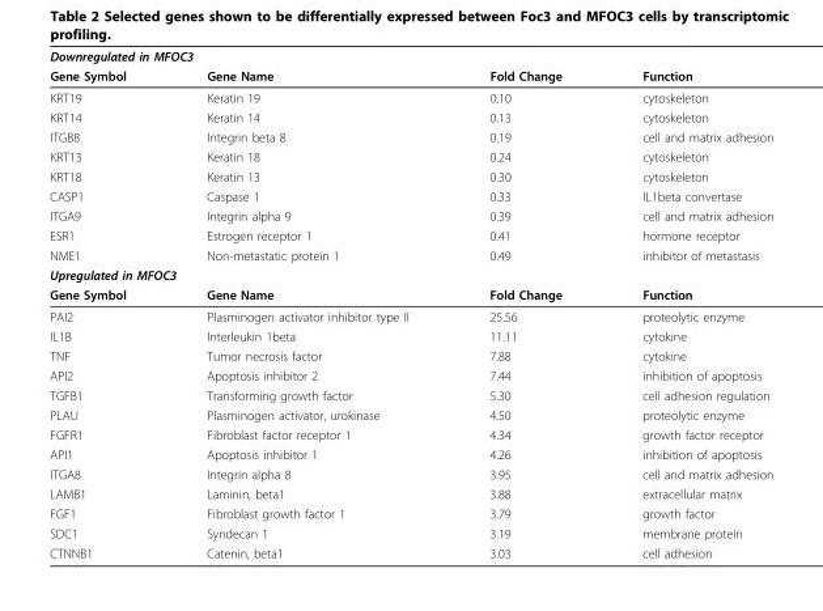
<table><thead><tr><td colspan="4">Downregulated in MFOC3</td></tr><tr><td>Gene Symbol</td><td>Gene Name</td><td>Fold Change</td><td>Function</td></tr></thead><tbody><tr><td>KRT19</td><td>Keratin 19</td><td>0.10</td><td>cytoskeleton</td></tr><tr><td>KRT14</td><td>Keratin 14</td><td>0.13</td><td>cytoskeleton</td></tr><tr><td>ITGB8</td><td>Integrin beta 8</td><td>0.19</td><td>cell and matrix adhesion</td></tr><tr><td>KRT13</td><td>Keratin 18</td><td>0.24</td><td>cytoskeleton</td></tr><tr><td>KRT18</td><td>Keratin 13</td><td>0.30</td><td>cytoskeleton</td></tr><tr><td>CASP1</td><td>Caspase 1</td><td>0.33</td><td>IL1beta convertase</td></tr><tr><td>ITGA9</td><td>Integrin alpha 9</td><td>0.39</td><td>cell and matrix adhesion</td></tr><tr><td>ESR1</td><td>Estrogen receptor 1</td><td>0.41</td><td>hormone receptor</td></tr><tr><td>NME1</td><td>Non-metastatic protein 1</td><td>0.49</td><td>inhibitor of metastasis</td></tr><tr><td colspan="4">Upregulated in MFOC3</td></tr><tr><td>Gene Symbol</td><td>Gene Name</td><td>Fold Change</td><td>Function</td></tr><tr><td>PAI2</td><td>Plasminogen activator inhibitor type II</td><td>25.56</td><td>proteolytic enzyme</td></tr><tr><td>IL1B</td><td>Interleukin 1beta</td><td>11.11</td><td>cytokine</td></tr><tr><td>TNF</td><td>Tumor necrosis factor</td><td>7.88</td><td>cytokine</td></tr><tr><td>API2</td><td>Apoptosis inhibitor 2</td><td>7.44</td><td>inhibition of apoptosis</td></tr><tr><td>TGFB1</td><td>Transforming growth factor</td><td>5.30</td><td>cell adhesion regulation</td></tr><tr><td>PLAU</td><td>Plasminogen activator, urokinase</td><td>4.50</td><td>proteolytic enzyme</td></tr><tr><td>FGFR1</td><td>Fibroblast factor receptor 1</td><td>4.34</td><td>growth factor receptor</td></tr><tr><td>API1</td><td>Apoptosis inhibitor 1</td><td>4.26</td><td>inhibition of apoptosis</td></tr><tr><td>ITGA8</td><td>Integrin alpha 8</td><td>3.95</td><td>cell and matrix adhesion</td></tr><tr><td>LAMB1</td><td>Laminin, beta1</td><td>3.88</td><td>extracellular matrix</td></tr><tr><td>FGF1</td><td>Fibroblast growth factor 1</td><td>3.79</td><td>growth factor</td></tr><tr><td>SDC1</td><td>Syndecan 1</td><td>3.19</td><td>membrane protein</td></tr><tr><td>CTNNB1</td><td>Catenin, beta1</td><td>3.03</td><td>cell adhesion</td></tr></tbody></table>